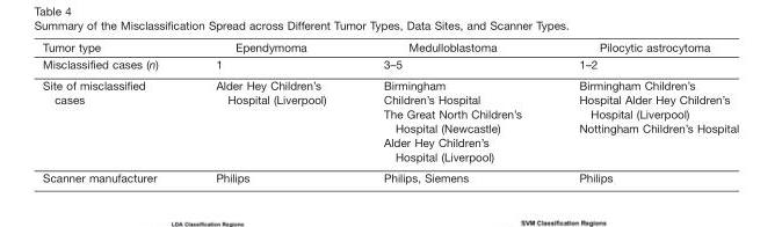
<table><thead><tr><td>Tumor type</td><td>Ependymoma</td><td>Medulloblastoma</td><td>Pilocytic astrocytoma</td></tr></thead><tbody><tr><td>Misclassified cases (n)</td><td>1</td><td>3–5</td><td>1–2</td></tr><tr><td>Site of misclassified cases</td><td>Alder Hey Children’s Hospital (Liverpool)</td><td>Birmingham Children’s Hospital The Great North Children’s Hospital (Newcastle) Alder Hey Children’s Hospital (Liverpool)</td><td>Birmingham Children’s Hospital Alder Hey Children’s Hospital (Liverpool) Nottingham Children’s Hospital</td></tr><tr><td>Scanner manufacturer</td><td>Philips</td><td>Philips, Siemens</td><td>Philips</td></tr></tbody></table>